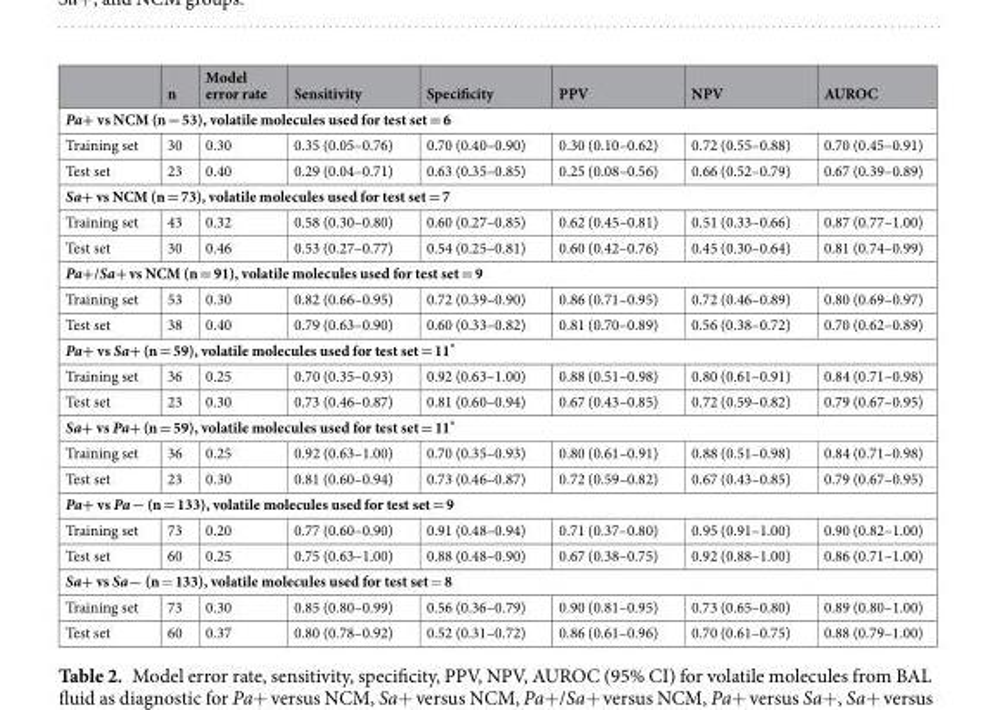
<table><thead><tr><td></td><td>n</td><td>Model error rate</td><td>Sensitivity</td><td>Specificity</td><td>PPV</td><td>NPV</td><td>AUROC</td></tr></thead><tbody><tr><td colspan="8">Pa+ vs NCM (n = 53), volatile molecules used for test set = 6</td></tr><tr><td>Training set</td><td>30</td><td>0.30</td><td>0.35 (0.05–0.76)</td><td>0.70 (0.40–0.90)</td><td>0.30 (0.10–0.62)</td><td>0.72 (0.55–0.88)</td><td>0.70 (0.45–0.91)</td></tr><tr><td>Test set</td><td>23</td><td>0.40</td><td>0.29 (0.04–0.71)</td><td>0.63 (0.35–0.85)</td><td>0.25 (0.08–0.56)</td><td>0.66 (0.52–0.79)</td><td>0.67 (0.39–0.89)</td></tr><tr><td colspan="8">Sa+ vs NCM (n = 73), volatile molecules used for test set = 7</td></tr><tr><td>Training set</td><td>43</td><td>0.32</td><td>0.58 (0.30–0.80)</td><td>0.60 (0.27–0.85)</td><td>0.62 (0.45–0.81)</td><td>0.51 (0.33–0.66)</td><td>0.87 (0.77–1.00)</td></tr><tr><td>Test set</td><td>30</td><td>0.46</td><td>0.53 (0.27–0.77)</td><td>0.54 (0.25–0.81)</td><td>0.60 (0.42–0.76)</td><td>0.45 (0.30–0.64)</td><td>0.81 (0.74–0.99)</td></tr><tr><td colspan="8">Pa+/Sa+ vs NCM (n = 91), volatile molecules used for test set = 9</td></tr><tr><td>Training set</td><td>53</td><td>0.30</td><td>0.82 (0.66–0.95)</td><td>0.72 (0.39–0.90)</td><td>0.86 (0.71–0.95)</td><td>0.72 (0.46–0.89)</td><td>0.80 (0.69–0.97)</td></tr><tr><td>Test set</td><td>38</td><td>0.40</td><td>0.79 (0.63–0.90)</td><td>0.60 (0.33–0.82)</td><td>0.81 (0.70–0.89)</td><td>0.56 (0.38–0.72)</td><td>0.70 (0.62–0.89)</td></tr><tr><td colspan="8">Pa+ vs Sa+ (n = 59), volatile molecules used for test set = 11*</td></tr><tr><td>Training set</td><td>36</td><td>0.25</td><td>0.70 (0.35–0.93)</td><td>0.92 (0.63–1.00)</td><td>0.88 (0.51–0.98)</td><td>0.80 (0.61–0.91)</td><td>0.84 (0.71–0.98)</td></tr><tr><td>Test set</td><td>23</td><td>0.30</td><td>0.73 (0.46–0.87)</td><td>0.81 (0.60–0.94)</td><td>0.67 (0.43–0.85)</td><td>0.72 (0.59–0.82)</td><td>0.79 (0.67–0.95)</td></tr><tr><td colspan="8">Sa+ vs Pa+ (n = 59), volatile molecules used for test set = 11*</td></tr><tr><td>Training set</td><td>36</td><td>0.25</td><td>0.92 (0.63–1.00)</td><td>0.70 (0.35–0.93)</td><td>0.80 (0.61–0.91)</td><td>0.88 (0.51–0.98)</td><td>0.84 (0.71–0.98)</td></tr><tr><td>Test set</td><td>23</td><td>0.30</td><td>0.81 (0.60–0.94)</td><td>0.73 (0.46–0.87)</td><td>0.72 (0.59–0.82)</td><td>0.67 (0.43–0.85)</td><td>0.79 (0.67–0.95)</td></tr><tr><td colspan="8">Pa+ vs Pa− (n = 133), volatile molecules used for test set = 9</td></tr><tr><td>Training set</td><td>73</td><td>0.20</td><td>0.77 (0.60–0.90)</td><td>0.91 (0.48–0.94)</td><td>0.71 (0.37–0.80)</td><td>0.95 (0.91–1.00)</td><td>0.90 (0.82–1.00)</td></tr><tr><td>Test set</td><td>60</td><td>0.25</td><td>0.75 (0.63–1.00)</td><td>0.88 (0.48–0.90)</td><td>0.67 (0.38–0.75)</td><td>0.92 (0.88–1.00)</td><td>0.86 (0.71–1.00)</td></tr><tr><td colspan="8">Sa+ vs Sa− (n = 133), volatile molecules used for test set = 8</td></tr><tr><td>Training set</td><td>73</td><td>0.30</td><td>0.85 (0.80–0.99)</td><td>0.56 (0.36–0.79)</td><td>0.90 (0.81–0.95)</td><td>0.73 (0.65–0.80)</td><td>0.89 (0.80–1.00)</td></tr><tr><td>Test set</td><td>60</td><td>0.37</td><td>0.80 (0.78–0.92)</td><td>0.52 (0.31–0.72)</td><td>0.86 (0.61–0.96)</td><td>0.70 (0.61–0.75)</td><td>0.88 (0.79–1.00)</td></tr></tbody></table>